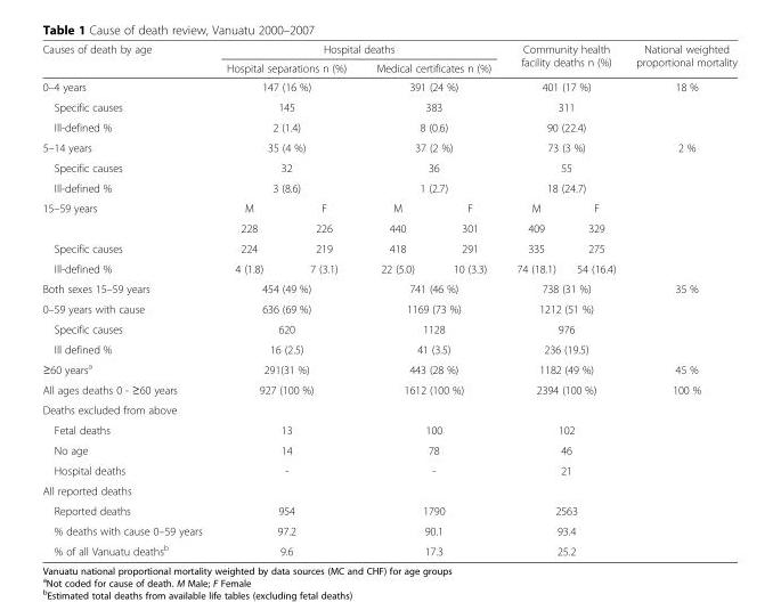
<table><thead><tr><td rowspan="2">Causes of death by age</td><td colspan="4">Hospital deaths</td><td rowspan="2" colspan="2">Community health facility deaths n (%)</td><td rowspan="2">National weighted proportional mortality</td></tr><tr><td colspan="2">Hospital separations n (%)</td><td colspan="2">Medical certificates n (%)</td></tr></thead><tbody><tr><td>0–4 years</td><td colspan="2">147 (16 %)</td><td colspan="2">391 (24 %)</td><td colspan="2">401 (17 %)</td><td>18 %</td></tr><tr><td>Specific causes</td><td colspan="2">145</td><td colspan="2">383</td><td colspan="2">311</td><td></td></tr><tr><td>Ill-defined %</td><td colspan="2">2 (1.4)</td><td colspan="2">8 (0.6)</td><td colspan="2">90 (22.4)</td><td></td></tr><tr><td>5–14 years</td><td colspan="2">35 (4 %)</td><td colspan="2">37 (2 %)</td><td colspan="2">73 (3 %)</td><td>2 %</td></tr><tr><td>Specific causes</td><td colspan="2">32</td><td colspan="2">36</td><td colspan="2">55</td><td></td></tr><tr><td>Ill-defined %</td><td colspan="2">3 (8.6)</td><td colspan="2">1 (2.7)</td><td colspan="2">18 (24.7)</td><td></td></tr><tr><td rowspan="2">15–59 years</td><td>M</td><td>F</td><td>M</td><td>F</td><td>M</td><td>F</td><td></td></tr><tr><td>228</td><td>226</td><td>440</td><td>301</td><td>409</td><td>329</td><td></td></tr><tr><td>Specific causes</td><td>224</td><td>219</td><td>418</td><td>291</td><td>335</td><td>275</td><td></td></tr><tr><td>Ill-defined %</td><td>4 (1.8)</td><td>7 (3.1)</td><td>22 (5.0)</td><td>10 (3.3)</td><td>74 (18.1)</td><td>54 (16.4)</td><td></td></tr><tr><td>Both sexes 15–59 years</td><td colspan="2">454 (49 %)</td><td colspan="2">741 (46 %)</td><td colspan="2">738 (31 %)</td><td>35 %</td></tr><tr><td>0–59 years with cause</td><td colspan="2">636 (69 %)</td><td colspan="2">1169 (73 %)</td><td colspan="2">1212 (51 %)</td><td></td></tr><tr><td>Specific causes</td><td colspan="2">620</td><td colspan="2">1128</td><td colspan="2">976</td><td></td></tr><tr><td>Ill defined %</td><td colspan="2">16 (2.5)</td><td colspan="2">41 (3.5)</td><td colspan="2">236 (19.5)</td><td></td></tr><tr><td>≥60 years<sup>a</sup></td><td colspan="2">291(31 %)</td><td colspan="2">443 (28 %)</td><td colspan="2">1182 (49 %)</td><td>45 %</td></tr><tr><td>All ages deaths 0 - ≥60 years</td><td colspan="2">927 (100 %)</td><td colspan="2">1612 (100 %)</td><td colspan="2">2394 (100 %)</td><td>100 %</td></tr><tr><td colspan="8">Deaths excluded from above</td></tr><tr><td>Fetal deaths</td><td colspan="2">13</td><td colspan="2">100</td><td colspan="2">102</td><td></td></tr><tr><td>No age</td><td colspan="2">14</td><td colspan="2">78</td><td colspan="2">46</td><td></td></tr><tr><td>Hospital deaths</td><td colspan="2">-</td><td colspan="2">-</td><td colspan="2">21</td><td></td></tr><tr><td colspan="8">All reported deaths</td></tr><tr><td>Reported deaths</td><td colspan="2">954</td><td colspan="2">1790</td><td colspan="2">2563</td><td></td></tr><tr><td>% deaths with cause 0–59 years</td><td colspan="2">97.2</td><td colspan="2">90.1</td><td colspan="2">93.4</td><td></td></tr><tr><td>% of all Vanuatu deaths<sup>b</sup></td><td colspan="2">9.6</td><td colspan="2">17.3</td><td colspan="2">25.2</td><td></td></tr></tbody></table>